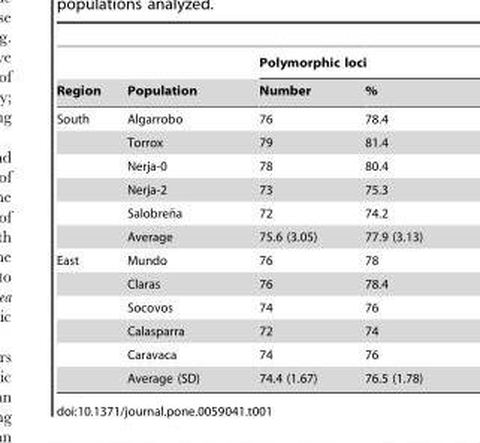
<table><thead><tr><td rowspan="2">Region</td><td rowspan="2">Population</td><td colspan="2">Polymorphic loci</td></tr><tr><td>Number</td><td>%</td></tr></thead><tbody><tr><td rowspan="6">South</td><td>Algarrobo</td><td>76</td><td>78.4</td></tr><tr><td>Torrox</td><td>79</td><td>81.4</td></tr><tr><td>Nerja-0</td><td>78</td><td>80.4</td></tr><tr><td>Nerja-2</td><td>73</td><td>75.3</td></tr><tr><td>Salobren˜a</td><td>72</td><td>74.2</td></tr><tr><td>Average</td><td>75.6 (3.05)</td><td>77.9 (3.13)</td></tr><tr><td rowspan="6">East</td><td>Mundo</td><td>76</td><td>78</td></tr><tr><td>Claras</td><td>76</td><td>78.4</td></tr><tr><td>Socovos</td><td>74</td><td>76</td></tr><tr><td>Calasparra</td><td>72</td><td>74</td></tr><tr><td>Caravaca</td><td>74</td><td>76</td></tr><tr><td>Average (SD)</td><td>74.4 (1.67)</td><td>76.5 (1.78)</td></tr></tbody></table>